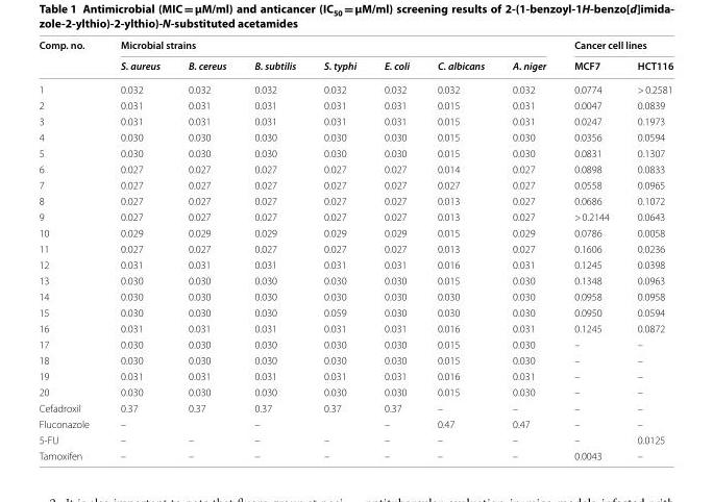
<table><thead><tr><td rowspan="2">Comp. no.</td><td colspan="7">Microbial strains</td><td colspan="2">Cancer cell lines</td></tr><tr><td>S. aureus</td><td>B. cereus</td><td>B. subtilis</td><td>S. typhi</td><td>E. coli</td><td>C. albicans</td><td>A. niger</td><td>MCF7</td><td>HCT116</td></tr></thead><tbody><tr><td>1</td><td>0.032</td><td>0.032</td><td>0.032</td><td>0.032</td><td>0.032</td><td>0.032</td><td>0.032</td><td>0.0774</td><td>&gt; 0.2581</td></tr><tr><td>2</td><td>0.031</td><td>0.031</td><td>0.031</td><td>0.031</td><td>0.031</td><td>0.015</td><td>0.031</td><td>0.0047</td><td>0.0839</td></tr><tr><td>3</td><td>0.031</td><td>0.031</td><td>0.031</td><td>0.031</td><td>0.031</td><td>0.015</td><td>0.031</td><td>0.0247</td><td>0.1973</td></tr><tr><td>4</td><td>0.030</td><td>0.030</td><td>0.030</td><td>0.030</td><td>0.030</td><td>0.015</td><td>0.030</td><td>0.0356</td><td>0.0594</td></tr><tr><td>5</td><td>0.030</td><td>0.030</td><td>0.030</td><td>0.030</td><td>0.030</td><td>0.015</td><td>0.030</td><td>0.0831</td><td>0.1307</td></tr><tr><td>6</td><td>0.027</td><td>0.027</td><td>0.027</td><td>0.027</td><td>0.027</td><td>0.014</td><td>0.027</td><td>0.0898</td><td>0.0833</td></tr><tr><td>7</td><td>0.027</td><td>0.027</td><td>0.027</td><td>0.027</td><td>0.027</td><td>0.027</td><td>0.027</td><td>0.0558</td><td>0.0965</td></tr><tr><td>8</td><td>0.027</td><td>0.027</td><td>0.027</td><td>0.027</td><td>0.027</td><td>0.013</td><td>0.027</td><td>0.0686</td><td>0.1072</td></tr><tr><td>9</td><td>0.027</td><td>0.027</td><td>0.027</td><td>0.027</td><td>0.027</td><td>0.013</td><td>0.027</td><td>&gt; 0.2144</td><td>0.0643</td></tr><tr><td>10</td><td>0.029</td><td>0.029</td><td>0.029</td><td>0.029</td><td>0.029</td><td>0.015</td><td>0.029</td><td>0.0786</td><td>0.0058</td></tr><tr><td>11</td><td>0.027</td><td>0.027</td><td>0.027</td><td>0.027</td><td>0.027</td><td>0.013</td><td>0.027</td><td>0.1606</td><td>0.0236</td></tr><tr><td>12</td><td>0.031</td><td>0.031</td><td>0.031</td><td>0.031</td><td>0.031</td><td>0.016</td><td>0.031</td><td>0.1245</td><td>0.0398</td></tr><tr><td>13</td><td>0.030</td><td>0.030</td><td>0.030</td><td>0.030</td><td>0.030</td><td>0.015</td><td>0.030</td><td>0.1348</td><td>0.0963</td></tr><tr><td>14</td><td>0.030</td><td>0.030</td><td>0.030</td><td>0.030</td><td>0.030</td><td>0.030</td><td>0.030</td><td>0.0958</td><td>0.0958</td></tr><tr><td>15</td><td>0.030</td><td>0.030</td><td>0.030</td><td>0.059</td><td>0.030</td><td>0.030</td><td>0.030</td><td>0.0950</td><td>0.0594</td></tr><tr><td>16</td><td>0.031</td><td>0.031</td><td>0.031</td><td>0.031</td><td>0.031</td><td>0.016</td><td>0.031</td><td>0.1245</td><td>0.0872</td></tr><tr><td>17</td><td>0.030</td><td>0.030</td><td>0.030</td><td>0.030</td><td>0.030</td><td>0.015</td><td>0.030</td><td>–</td><td>–</td></tr><tr><td>18</td><td>0.030</td><td>0.030</td><td>0.030</td><td>0.030</td><td>0.030</td><td>0.015</td><td>0.030</td><td>–</td><td>–</td></tr><tr><td>19</td><td>0.031</td><td>0.031</td><td>0.031</td><td>0.031</td><td>0.031</td><td>0.016</td><td>0.031</td><td>–</td><td>–</td></tr><tr><td>20</td><td>0.030</td><td>0.030</td><td>0.030</td><td>0.030</td><td>0.030</td><td>0.015</td><td>0.030</td><td>–</td><td>–</td></tr><tr><td>Cefadroxil</td><td>0.37</td><td>0.37</td><td>0.37</td><td>0.37</td><td>0.37</td><td>–</td><td>–</td><td>–</td><td>–</td></tr><tr><td>Fluconazole</td><td>–</td><td></td><td>–</td><td></td><td>–</td><td>0.47</td><td>0.47</td><td>–</td><td>–</td></tr><tr><td>5-FU</td><td>–</td><td>–</td><td>–</td><td>–</td><td>–</td><td>–</td><td>–</td><td>–</td><td>0.0125</td></tr><tr><td>Tamoxifen</td><td>–</td><td>–</td><td>–</td><td>–</td><td>–</td><td>–</td><td>–</td><td>0.0043</td><td>–</td></tr></tbody></table>